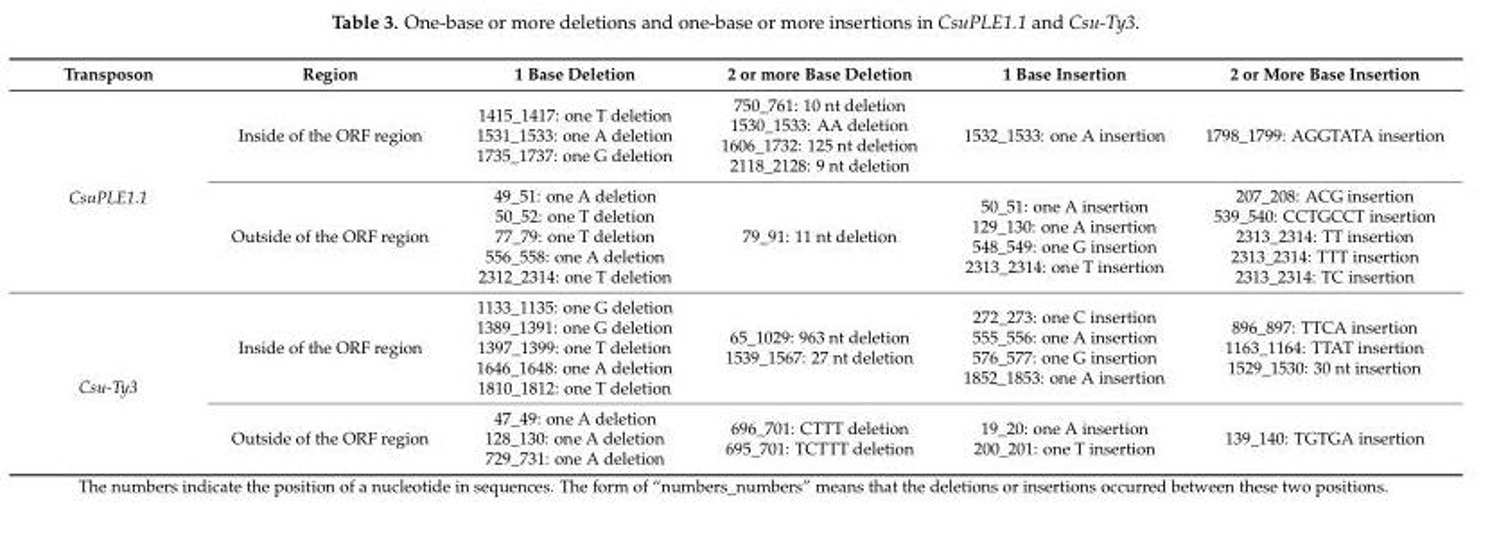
<table><thead><tr><td>Transposon</td><td>Region</td><td>1 Base Deletion</td><td>2 or more Base Deletion</td><td>1 Base Insertion</td><td>2 or More Base Insertion</td></tr></thead><tbody><tr><td rowspan="2">CsuPLE1.1</td><td>Inside of the ORF region</td><td>1415_1417: one T deletion 1531_1533: one A deletion 1735_1737: one G deletion</td><td>750_761: 10 nt deletion 1530_1533: AA deletion 1606_1732: 125 nt deletion 2118_2128: 9 nt deletion</td><td>1532_1533: one A insertion</td><td>1798_1799: AGGTATA insertion</td></tr><tr><td>Outside of the ORF region</td><td>49_51: one A deletion 50_52: one T deletion 77_79: one T deletion 556_558: one A deletion 2312_2314: one T deletion</td><td>79_91: 11 nt deletion</td><td>50_51: one A insertion 129_130: one A insertion 548_549: one G insertion 2313_2314: one T insertion</td><td>207_208: ACG insertion 539_540: CCTGCCT insertion 2313_2314: TT insertion 2313_2314: TTT insertion 2313_2314: TC insertion</td></tr><tr><td rowspan="2">Csu-Ty3</td><td>Inside of the ORF region</td><td>1133_1135: one G deletion 1389_1391: one G deletion 1397_1399: one T deletion 1646_1648: one A deletion 1810_1812: one T deletion</td><td>65_1029: 963 nt deletion 1539_1567: 27 nt deletion</td><td>272_273: one C insertion 555_556: one A insertion 576_577: one G insertion 1852_1853: one A insertion</td><td>896_897: TTCA insertion 1163_1164: TTAT insertion 1529_1530: 30 nt insertion</td></tr><tr><td>Outside of the ORF region</td><td>47_49: one A deletion 128_130: one A deletion 729_731: one A deletion</td><td>696_701: CTTT deletion 695_701: TCTTT deletion</td><td>19_20: one A insertion 200_201: one T insertion</td><td>139_140: TGTGA insertion</td></tr></tbody></table>